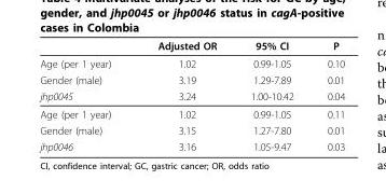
<table><thead><tr><td></td><td>Adjusted OR</td><td>95% CI</td><td>P</td></tr></thead><tbody><tr><td>Age (per 1 year)</td><td>1.02</td><td>0.99-1.05</td><td>0.10</td></tr><tr><td>Gender (male)</td><td>3.19</td><td>1.29-7.89</td><td>0.01</td></tr><tr><td>jhp0045</td><td>3.24</td><td>1.00-10.42</td><td>0.04</td></tr><tr><td>Age (per 1 year)</td><td>1.02</td><td>0.99-1.05</td><td>0.11</td></tr><tr><td>Gender (male)</td><td>3.15</td><td>1.27-7.80</td><td>0.01</td></tr><tr><td>jhp0046</td><td>3.16</td><td>1.05-9.47</td><td>0.03</td></tr></tbody></table>